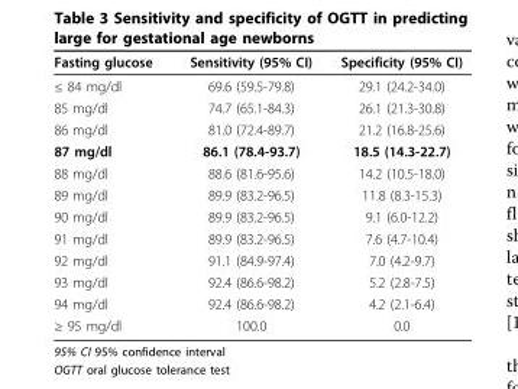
<table><thead><tr><td>Fasting glucose</td><td>Sensitivity (95% CI)</td><td>Specificity (95% CI)</td></tr></thead><tbody><tr><td>≤ 84 mg/dl</td><td>69.6 (59.5-79.8)</td><td>29.1 (24.2-34.0)</td></tr><tr><td>85 mg/dl</td><td>74.7 (65.1-84.3)</td><td>26.1 (21.3-30.8)</td></tr><tr><td>86 mg/dl</td><td>81.0 (72.4-89.7)</td><td>21.2 (16.8-25.6)</td></tr><tr><td>87 mg/dl</td><td>86.1 (78.4-93.7)</td><td>18.5 (14.3-22.7)</td></tr><tr><td>88 mg/dl</td><td>88.6 (81.6-95.6)</td><td>14.2 (10.5-18.0)</td></tr><tr><td>89 mg/dl</td><td>89.9 (83.2-96.5)</td><td>11.8 (8.3-15.3)</td></tr><tr><td>90 mg/dl</td><td>89.9 (83.2-96.5)</td><td>9.1 (6.0-12.2)</td></tr><tr><td>91 mg/dl</td><td>89.9 (83.2-96.5)</td><td>7.6 (4.7-10.4)</td></tr><tr><td>92 mg/dl</td><td>91.1 (84.9-97.4)</td><td>7.0 (4.2-9.7)</td></tr><tr><td>93 mg/dl</td><td>92.4 (86.6-98.2)</td><td>5.2 (2.8-7.5)</td></tr><tr><td>94 mg/dl</td><td>92.4 (86.6-98.2)</td><td>4.2 (2.1-6.4)</td></tr><tr><td>≥ 95 mg/dl</td><td>100.0</td><td>0.0</td></tr></tbody></table>